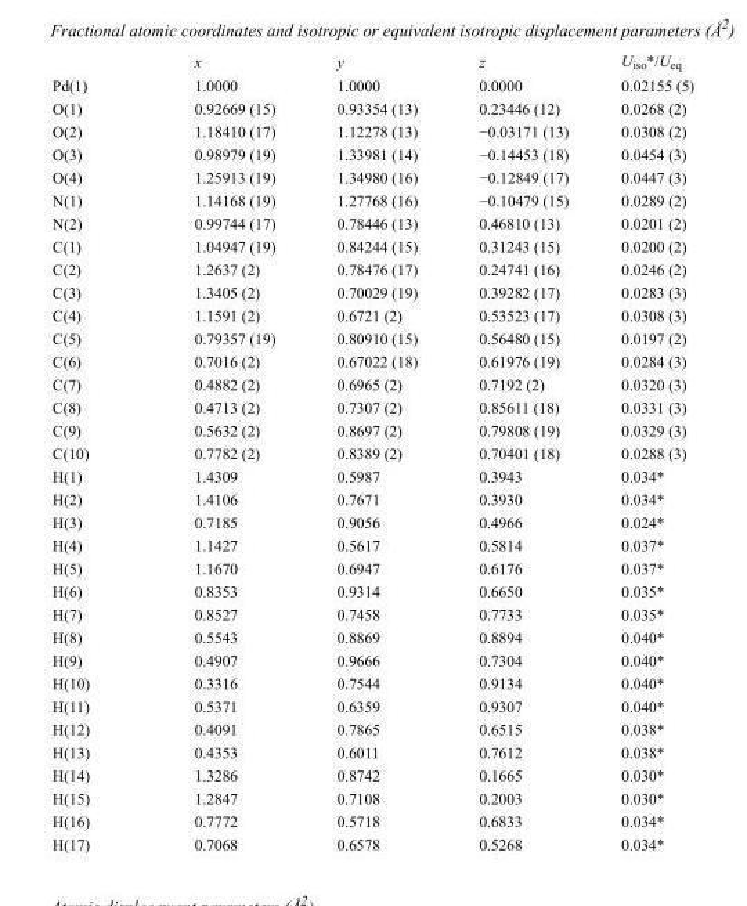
<table><thead><tr><td></td><td>x</td><td>y</td><td>z</td><td>U<sub>iso</sub>*/U<sub>eq</sub></td></tr></thead><tbody><tr><td>Pd(1)</td><td>1.0000</td><td>1.0000</td><td>0.0000</td><td>0.02155 (5)</td></tr><tr><td>O(1)</td><td>0.92669 (15)</td><td>0.93354 (13)</td><td>0.23446 (12)</td><td>0.0268 (2)</td></tr><tr><td>O(2)</td><td>1.18410 (17)</td><td>1.12278 (13)</td><td>−0.03171 (13)</td><td>0.0308 (2)</td></tr><tr><td>O(3)</td><td>0.98979 (19)</td><td>1.33981 (14)</td><td>−0.14453 (18)</td><td>0.0454 (3)</td></tr><tr><td>O(4)</td><td>1.25913 (19)</td><td>1.34980 (16)</td><td>−0.12849 (17)</td><td>0.0447 (3)</td></tr><tr><td>N(1)</td><td>1.14168 (19)</td><td>1.27768 (16)</td><td>−0.10479 (15)</td><td>0.0289 (2)</td></tr><tr><td>N(2)</td><td>0.99744 (17)</td><td>0.78446 (13)</td><td>0.46810 (13)</td><td>0.0201 (2)</td></tr><tr><td>C(1)</td><td>1.04947 (19)</td><td>0.84244 (15)</td><td>0.31243 (15)</td><td>0.0200 (2)</td></tr><tr><td>C(2)</td><td>1.2637 (2)</td><td>0.78476 (17)</td><td>0.24741 (16)</td><td>0.0246 (2)</td></tr><tr><td>C(3)</td><td>1.3405 (2)</td><td>0.70029 (19)</td><td>0.39282 (17)</td><td>0.0283 (3)</td></tr><tr><td>C(4)</td><td>1.1591 (2)</td><td>0.6721 (2)</td><td>0.53523 (17)</td><td>0.0308 (3)</td></tr><tr><td>C(5)</td><td>0.79357 (19)</td><td>0.80910 (15)</td><td>0.56480 (15)</td><td>0.0197 (2)</td></tr><tr><td>C(6)</td><td>0.7016 (2)</td><td>0.67022 (18)</td><td>0.61976 (19)</td><td>0.0284 (3)</td></tr><tr><td>C(7)</td><td>0.4882 (2)</td><td>0.6965 (2)</td><td>0.7192 (2)</td><td>0.0320 (3)</td></tr><tr><td>C(8)</td><td>0.4713 (2)</td><td>0.7307 (2)</td><td>0.85611 (18)</td><td>0.0331 (3)</td></tr><tr><td>C(9)</td><td>0.5632 (2)</td><td>0.8697 (2)</td><td>0.79808 (19)</td><td>0.0329 (3)</td></tr><tr><td>C(10)</td><td>0.7782 (2)</td><td>0.8389 (2)</td><td>0.70401 (18)</td><td>0.0288 (3)</td></tr><tr><td>H(1)</td><td>1.4309</td><td>0.5987</td><td>0.3943</td><td>0.034*</td></tr><tr><td>H(2)</td><td>1.4106</td><td>0.7671</td><td>0.3930</td><td>0.034*</td></tr><tr><td>H(3)</td><td>0.7185</td><td>0.9056</td><td>0.4966</td><td>0.024*</td></tr><tr><td>H(4)</td><td>1.1427</td><td>0.5617</td><td>0.5814</td><td>0.037*</td></tr><tr><td>H(5)</td><td>1.1670</td><td>0.6947</td><td>0.6176</td><td>0.037*</td></tr><tr><td>H(6)</td><td>0.8353</td><td>0.9314</td><td>0.6650</td><td>0.035*</td></tr><tr><td>H(7)</td><td>0.8527</td><td>0.7458</td><td>0.7733</td><td>0.035*</td></tr><tr><td>H(8)</td><td>0.5543</td><td>0.8869</td><td>0.8894</td><td>0.040*</td></tr><tr><td>H(9)</td><td>0.4907</td><td>0.9666</td><td>0.7304</td><td>0.040*</td></tr><tr><td>H(10)</td><td>0.3316</td><td>0.7544</td><td>0.9134</td><td>0.040*</td></tr><tr><td>H(11)</td><td>0.5371</td><td>0.6359</td><td>0.9307</td><td>0.040*</td></tr><tr><td>H(12)</td><td>0.4091</td><td>0.7865</td><td>0.6515</td><td>0.038*</td></tr><tr><td>H(13)</td><td>0.4353</td><td>0.6011</td><td>0.7612</td><td>0.038*</td></tr><tr><td>H(14)</td><td>1.3286</td><td>0.8742</td><td>0.1665</td><td>0.030*</td></tr><tr><td>H(15)</td><td>1.2847</td><td>0.7108</td><td>0.2003</td><td>0.030*</td></tr><tr><td>H(16)</td><td>0.7772</td><td>0.5718</td><td>0.6833</td><td>0.034*</td></tr><tr><td>H(17)</td><td>0.7068</td><td>0.6578</td><td>0.5268</td><td>0.034*</td></tr></tbody></table>